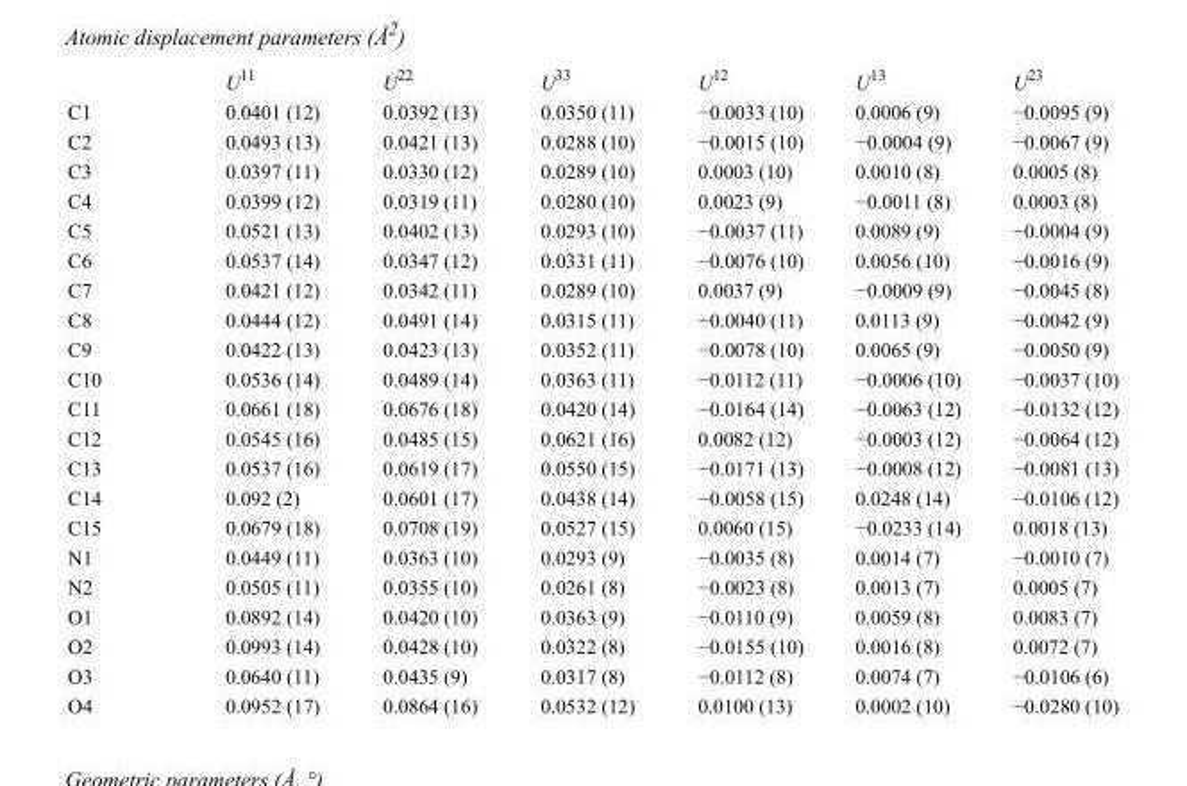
<table><thead><tr><td></td><td>U<sup>11</sup></td><td>U<sup>22</sup></td><td>U<sup>33</sup></td><td>U<sup>12</sup></td><td>U<sup>13</sup></td><td>U<sup>23</sup></td></tr></thead><tbody><tr><td>C1</td><td>0.0401 (12)</td><td>0.0392 (13)</td><td>0.0350 (11)</td><td>−0.0033 (10)</td><td>0.0006 (9)</td><td>−0.0095 (9)</td></tr><tr><td>C2</td><td>0.0493 (13)</td><td>0.0421 (13)</td><td>0.0288 (10)</td><td>−0.0015 (10)</td><td>−0.0004 (9)</td><td>−0.0067 (9)</td></tr><tr><td>C3</td><td>0.0397 (11)</td><td>0.0330 (12)</td><td>0.0289 (10)</td><td>0.0003 (10)</td><td>0.0010 (8)</td><td>0.0005 (8)</td></tr><tr><td>C4</td><td>0.0399 (12)</td><td>0.0319 (11)</td><td>0.0280 (10)</td><td>0.0023 (9)</td><td>−0.0011 (8)</td><td>0.0003 (8)</td></tr><tr><td>C5</td><td>0.0521 (13)</td><td>0.0402 (13)</td><td>0.0293 (10)</td><td>−0.0037 (11)</td><td>0.0089 (9)</td><td>−0.0004 (9)</td></tr><tr><td>C6</td><td>0.0537 (14)</td><td>0.0347 (12)</td><td>0.0331 (11)</td><td>−0.0076 (10)</td><td>0.0056 (10)</td><td>−0.0016 (9)</td></tr><tr><td>C7</td><td>0.0421 (12)</td><td>0.0342 (11)</td><td>0.0289 (10)</td><td>0.0037 (9)</td><td>−0.0009 (9)</td><td>−0.0045 (8)</td></tr><tr><td>C8</td><td>0.0444 (12)</td><td>0.0491 (14)</td><td>0.0315 (11)</td><td>−0.0040 (11)</td><td>0.0113 (9)</td><td>−0.0042 (9)</td></tr><tr><td>C9</td><td>0.0422 (13)</td><td>0.0423 (13)</td><td>0.0352 (11)</td><td>−0.0078 (10)</td><td>0.0065 (9)</td><td>−0.0050 (9)</td></tr><tr><td>C10</td><td>0.0536 (14)</td><td>0.0489 (14)</td><td>0.0363 (11)</td><td>−0.0112 (11)</td><td>−0.0006 (10)</td><td>−0.0037 (10)</td></tr><tr><td>C11</td><td>0.0661 (18)</td><td>0.0676 (18)</td><td>0.0420 (14)</td><td>−0.0164 (14)</td><td>−0.0063 (12)</td><td>−0.0132 (12)</td></tr><tr><td>C12</td><td>0.0545 (16)</td><td>0.0485 (15)</td><td>0.0621 (16)</td><td>0.0082 (12)</td><td>−0.0003 (12)</td><td>−0.0064 (12)</td></tr><tr><td>C13</td><td>0.0537 (16)</td><td>0.0619 (17)</td><td>0.0550 (15)</td><td>−0.0171 (13)</td><td>−0.0008 (12)</td><td>−0.0081 (13)</td></tr><tr><td>C14</td><td>0.092 (2)</td><td>0.0601 (17)</td><td>0.0438 (14)</td><td>−0.0058 (15)</td><td>0.0248 (14)</td><td>−0.0106 (12)</td></tr><tr><td>C15</td><td>0.0679 (18)</td><td>0.0708 (19)</td><td>0.0527 (15)</td><td>0.0060 (15)</td><td>−0.0233 (14)</td><td>0.0018 (13)</td></tr><tr><td>N1</td><td>0.0449 (11)</td><td>0.0363 (10)</td><td>0.0293 (9)</td><td>−0.0035 (8)</td><td>0.0014 (7)</td><td>−0.0010 (7)</td></tr><tr><td>N2</td><td>0.0505 (11)</td><td>0.0355 (10)</td><td>0.0261 (8)</td><td>−0.0023 (8)</td><td>0.0013 (7)</td><td>0.0005 (7)</td></tr><tr><td>O1</td><td>0.0892 (14)</td><td>0.0420 (10)</td><td>0.0363 (9)</td><td>−0.0110 (9)</td><td>0.0059 (8)</td><td>0.0083 (7)</td></tr><tr><td>O2</td><td>0.0993 (14)</td><td>0.0428 (10)</td><td>0.0322 (8)</td><td>−0.0155 (10)</td><td>0.0016 (8)</td><td>0.0072 (7)</td></tr><tr><td>O3</td><td>0.0640 (11)</td><td>0.0435 (9)</td><td>0.0317 (8)</td><td>−0.0112 (8)</td><td>0.0074 (7)</td><td>−0.0106 (6)</td></tr><tr><td>O4</td><td>0.0952 (17)</td><td>0.0864 (16)</td><td>0.0532 (12)</td><td>0.0100 (13)</td><td>0.0002 (10)</td><td>−0.0280 (10)</td></tr></tbody></table>